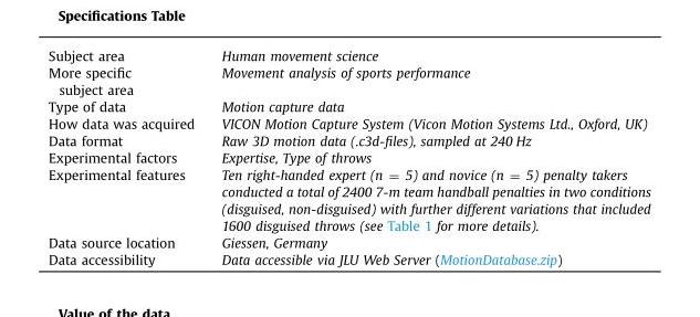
<table><thead><tr><td>Subject area</td><td>Human movement science</td></tr></thead><tbody><tr><td>More specific subject area</td><td>Movement analysis of sports performance</td></tr><tr><td>Type of data</td><td>Motion capture data</td></tr><tr><td>How data was acquired</td><td>VICON Motion Capture System (Vicon Motion Systems Ltd., Oxford, UK)</td></tr><tr><td>Data format</td><td>Raw 3D motion data (.c3d-files), sampled at 240 Hz</td></tr><tr><td>Experimental factors</td><td>Expertise, Type of throws</td></tr><tr><td>Experimental features</td><td>Ten right-handed expert (n = 5) and novice (n = 5) penalty takers conducted a total of 2400 7-m team handball penalties in two conditions (disguised, non-disguised) with further different variations that included 1600 disguised throws (see Table 1 for more details).</td></tr><tr><td>Data source location</td><td>Giessen, Germany</td></tr><tr><td>Data accessibility</td><td>Data accessible via JLU Web Server (MotionDatabase.zip)</td></tr></tbody></table>